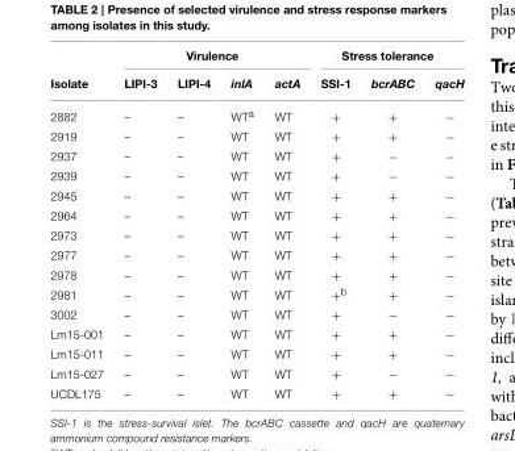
<table><thead><tr><td rowspan="2">Isolate</td><td colspan="4">Virulence</td><td colspan="3">Stress tolerance</td></tr><tr><td>LIPI-3</td><td>LIPI-4</td><td>inlA</td><td>actA</td><td>SSI-1</td><td>bcrABC</td><td>qacH</td></tr></thead><tbody><tr><td>2882</td><td>–</td><td>–</td><td>WT<sup>a</sup></td><td>WT</td><td>+</td><td>+</td><td>−</td></tr><tr><td>2919</td><td>–</td><td>–</td><td>WT</td><td>WT</td><td>+</td><td>+</td><td>−</td></tr><tr><td>2937</td><td>–</td><td>–</td><td>WT</td><td>WT</td><td>+</td><td>−</td><td>−</td></tr><tr><td>2939</td><td>–</td><td>–</td><td>WT</td><td>WT</td><td>+</td><td>−</td><td>−</td></tr><tr><td>2945</td><td>–</td><td>–</td><td>WT</td><td>WT</td><td>+</td><td>+</td><td>−</td></tr><tr><td>2964</td><td>–</td><td>–</td><td>WT</td><td>WT</td><td>+</td><td>+</td><td>−</td></tr><tr><td>2973</td><td>–</td><td>–</td><td>WT</td><td>WT</td><td>+</td><td>+</td><td>−</td></tr><tr><td>2977</td><td>–</td><td>–</td><td>WT</td><td>WT</td><td>+</td><td>+</td><td>−</td></tr><tr><td>2978</td><td>–</td><td>–</td><td>WT</td><td>WT</td><td>+</td><td>+</td><td>−</td></tr><tr><td>2981</td><td>–</td><td>–</td><td>WT</td><td>WT</td><td>+<sup>b</sup></td><td>+</td><td>−</td></tr><tr><td>3002</td><td>–</td><td>–</td><td>WT</td><td>WT</td><td>+</td><td>−</td><td>−</td></tr><tr><td>Lm15-001</td><td>–</td><td>–</td><td>WT</td><td>WT</td><td>+</td><td>+</td><td>−</td></tr><tr><td>Lm15-011</td><td>–</td><td>–</td><td>WT</td><td>WT</td><td>+</td><td>+</td><td>−</td></tr><tr><td>Lm15-027</td><td>–</td><td>–</td><td>WT</td><td>WT</td><td>+</td><td>−</td><td>−</td></tr><tr><td>UCDL175</td><td>–</td><td>–</td><td>WT</td><td>WT</td><td>+</td><td>+</td><td>−</td></tr></tbody></table>